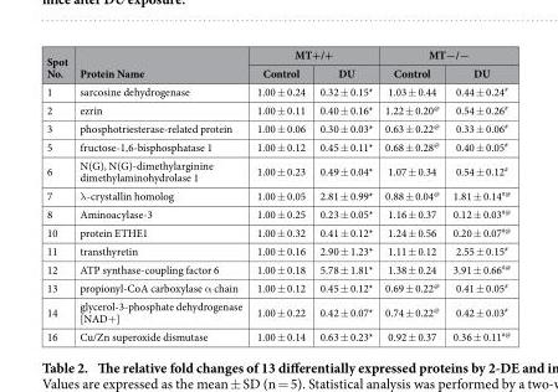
<table><thead><tr><td rowspan="2">Spot No.</td><td rowspan="2">Protein Name</td><td colspan="2">MT+/+</td><td colspan="2">MT−/−</td></tr><tr><td>Control</td><td>DU</td><td>Control</td><td>DU</td></tr></thead><tbody><tr><td>1</td><td>sarcosine dehydrogenase</td><td>1.00 ± 0.24</td><td>0.32 ± 0.15*</td><td>1.03 ± 0.44</td><td>0.44 ± 0.24<sup>#</sup></td></tr><tr><td>2</td><td>ezrin</td><td>1.00 ± 0.11</td><td>0.40 ± 0.16*</td><td>1.22 ± 0.20<sup>@</sup></td><td>0.54 ± 0.26#</td></tr><tr><td>3</td><td>phosphotriesterase-related protein</td><td>1.00 ± 0.06</td><td>0.30 ± 0.03*</td><td>0.63 ± 0.22<sup>@</sup></td><td>0.33 ± 0.06#</td></tr><tr><td>5</td><td>fructose-1,6-bisphosphatase 1</td><td>1.00 ± 0.12</td><td>0.45 ± 0.11*</td><td>0.68 ± 0.28<sup>@</sup></td><td>0.40 ± 0.05#</td></tr><tr><td>6</td><td>N(G), N(G)-dimethylarginine dimethylaminohydrolase 1</td><td>1.00 ± 0.23</td><td>0.49 ± 0.04*</td><td>1.07 ± 0.34</td><td>0.54 ± 0.12#</td></tr><tr><td>7</td><td>λ -crystallin homolog</td><td>1.00 ± 0.05</td><td>2.81 ± 0.99*</td><td>0.88 ± 0.04<sup>@</sup></td><td>1.81 ± 0.14<sup>#@</sup></td></tr><tr><td>8</td><td>Aminoacylase-3</td><td>1.00 ± 0.25</td><td>0.23 ± 0.05*</td><td>1.16 ± 0.37</td><td>0.12 ± 0.03<sup>#@</sup></td></tr><tr><td>10</td><td>protein ETHE1</td><td>1.00 ± 0.32</td><td>0.41 ± 0.12*</td><td>1.24 ± 0.56</td><td>0.20 ± 0.07<sup>#@</sup></td></tr><tr><td>11</td><td>transthyretin</td><td>1.00 ± 0.16</td><td>2.90 ± 1.23*</td><td>1.11 ± 0.12</td><td>2.55 ± 0.15#</td></tr><tr><td>12</td><td>ATP synthase-coupling factor 6</td><td>1.00 ± 0.18</td><td>5.78 ± 1.81*</td><td>1.38 ± 0.24</td><td>3.91 ± 0.66<sup>#@</sup></td></tr><tr><td>13</td><td>propionyl-CoA carboxylase α chain</td><td>1.00 ± 0.12</td><td>0.45 ± 0.12*</td><td>0.69 ± 0.22<sup>@</sup></td><td>0.41 ± 0.05#</td></tr><tr><td>14</td><td>glycerol-3-phosphate dehydrogenase [NAD+ ]</td><td>1.00 ± 0.22</td><td>0.42 ± 0.07*</td><td>0.74 ± 0.22<sup>@</sup></td><td>0.42 ± 0.03#</td></tr><tr><td>16</td><td>Cu/Zn superoxide dismutase</td><td>1.00 ± 0.14</td><td>0.63 ± 0.23*</td><td>0.92 ± 0.37</td><td>0.36 ± 0.11<sup>#@</sup></td></tr></tbody></table>